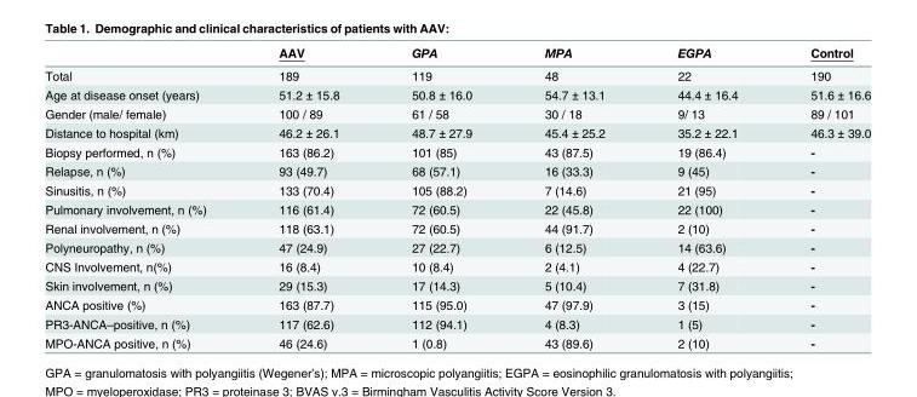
<table><thead><tr><td></td><td>AAV</td><td>GPA</td><td>MPA</td><td>EGPA</td><td>Control</td></tr></thead><tbody><tr><td>Total</td><td>189</td><td>119</td><td>48</td><td>22</td><td>190</td></tr><tr><td>Age at disease onset (years)</td><td>51.2 ± 15.8</td><td>50.8 ± 16.0</td><td>54.7 ± 13.1</td><td>44.4 ± 16.4</td><td>51.6 ± 16.6</td></tr><tr><td>Gender (male/ female)</td><td>100 / 89</td><td>61 / 58</td><td>30 / 18</td><td>9/ 13</td><td>89 / 101</td></tr><tr><td>Distance to hospital (km)</td><td>46.2 ± 26.1</td><td>48.7 ± 27.9</td><td>45.4 ± 25.2</td><td>35.2 ± 22.1</td><td>46.3 ± 39.0</td></tr><tr><td>Biopsy performed, n (%)</td><td>163 (86.2)</td><td>101 (85)</td><td>43 (87.5)</td><td>19 (86.4)</td><td>-</td></tr><tr><td>Relapse, n (%)</td><td>93 (49.7)</td><td>68 (57.1)</td><td>16 (33.3)</td><td>9 (45)</td><td>-</td></tr><tr><td>Sinusitis, n (%)</td><td>133 (70.4)</td><td>105 (88.2)</td><td>7 (14.6)</td><td>21 (95)</td><td>-</td></tr><tr><td>Pulmonary involvement, n (%)</td><td>116 (61.4)</td><td>72 (60.5)</td><td>22 (45.8)</td><td>22 (100)</td><td>-</td></tr><tr><td>Renal involvement, n (%)</td><td>118 (63.1)</td><td>72 (60.5)</td><td>44 (91.7)</td><td>2 (10)</td><td>-</td></tr><tr><td>Polyneuropathy, n (%)</td><td>47 (24.9)</td><td>27 (22.7)</td><td>6 (12.5)</td><td>14 (63.6)</td><td>-</td></tr><tr><td>CNS Involvement, n(%)</td><td>16 (8.4)</td><td>10 (8.4)</td><td>2 (4.1)</td><td>4 (22.7)</td><td>-</td></tr><tr><td>Skin involvement, n (%)</td><td>29 (15.3)</td><td>17 (14.3)</td><td>5 (10.4)</td><td>7 (31.8)</td><td>-</td></tr><tr><td>ANCA positive (%)</td><td>163 (87.7)</td><td>115 (95.0)</td><td>47 (97.9)</td><td>3 (15)</td><td>-</td></tr><tr><td>PR3-ANCA–positive, n (%)</td><td>117 (62.6)</td><td>112 (94.1)</td><td>4 (8.3)</td><td>1 (5)</td><td>-</td></tr><tr><td>MPO-ANCA positive, n (%)</td><td>46 (24.6)</td><td>1 (0.8)</td><td>43 (89.6)</td><td>2 (10)</td><td>-</td></tr></tbody></table>